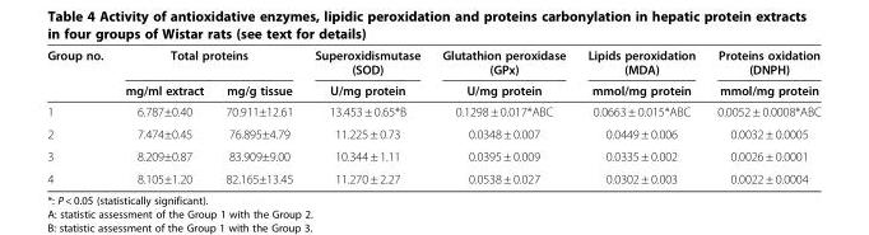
<table><thead><tr><td rowspan="2">Group no.</td><td colspan="2">Total proteins</td><td rowspan="2">Superoxidismutase (SOD) U/mg protein</td><td rowspan="2">Glutathion peroxidase (GPx) U/mg protein</td><td rowspan="2">Lipids peroxidation (MDA) mmol/mg protein</td><td rowspan="2">Proteins oxidation (DNPH) mmol/mg protein</td></tr><tr><td>mg/ml extract</td><td>mg/g tissue</td></tr></thead><tbody><tr><td>1</td><td>6.787±0.40</td><td>70.911±12.61</td><td>13.453 ± 0.65*B</td><td>0.1298 ± 0.017*ABC</td><td>0.0663 ± 0.015*ABC</td><td>0.0052 ± 0.0008*ABC</td></tr><tr><td>2</td><td>7.474±0.45</td><td>76.895±4.79</td><td>11.225 ± 0.73</td><td>0.0348 ± 0.007</td><td>0.0449 ± 0.006</td><td>0.0032 ± 0.0005</td></tr><tr><td>3</td><td>8.209±0.87</td><td>83.909±9.00</td><td>10.344 ± 1.11</td><td>0.0395 ± 0.009</td><td>0.0335 ± 0.002</td><td>0.0026 ± 0.0001</td></tr><tr><td>4</td><td>8.105±1.20</td><td>82.165±13.45</td><td>11.270 ± 2.27</td><td>0.0538 ± 0.027</td><td>0.0302 ± 0.003</td><td>0.0022 ± 0.0004</td></tr></tbody></table>